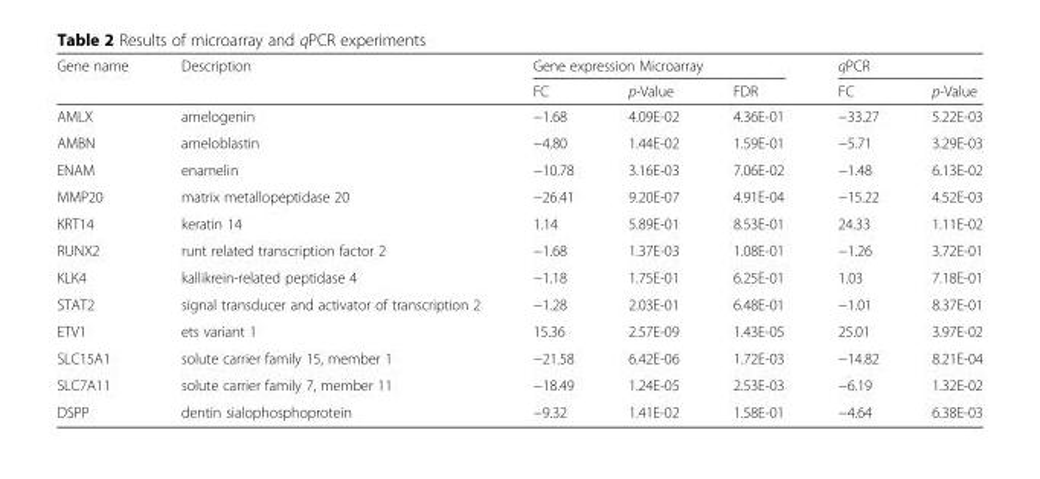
<table><thead><tr><td rowspan="2">Gene name</td><td rowspan="2">Description</td><td colspan="3">Gene expression Microarray</td><td colspan="2">qPCR</td></tr><tr><td>FC</td><td>p-Value</td><td>FDR</td><td>FC</td><td>p-Value</td></tr></thead><tbody><tr><td>AMLX</td><td>amelogenin</td><td>−1.68</td><td>4.09E-02</td><td>4.36E-01</td><td>−33.27</td><td>5.22E-03</td></tr><tr><td>AMBN</td><td>ameloblastin</td><td>−4.80</td><td>1.44E-02</td><td>1.59E-01</td><td>−5.71</td><td>3.29E-03</td></tr><tr><td>ENAM</td><td>enamelin</td><td>−10.78</td><td>3.16E-03</td><td>7.06E-02</td><td>−1.48</td><td>6.13E-02</td></tr><tr><td>MMP20</td><td>matrix metallopeptidase 20</td><td>−26.41</td><td>9.20E-07</td><td>4.91E-04</td><td>−15.22</td><td>4.52E-03</td></tr><tr><td>KRT14</td><td>keratin 14</td><td>1.14</td><td>5.89E-01</td><td>8.53E-01</td><td>24.33</td><td>1.11E-02</td></tr><tr><td>RUNX2</td><td>runt related transcription factor 2</td><td>−1.68</td><td>1.37E-03</td><td>1.08E-01</td><td>−1.26</td><td>3.72E-01</td></tr><tr><td>KLK4</td><td>kallikrein-related peptidase 4</td><td>−1.18</td><td>1.75E-01</td><td>6.25E-01</td><td>1.03</td><td>7.18E-01</td></tr><tr><td>STAT2</td><td>signal transducer and activator of transcription 2</td><td>−1.28</td><td>2.03E-01</td><td>6.48E-01</td><td>−1.01</td><td>8.37E-01</td></tr><tr><td>ETV1</td><td>ets variant 1</td><td>15.36</td><td>2.57E-09</td><td>1.43E-05</td><td>25.01</td><td>3.97E-02</td></tr><tr><td>SLC15A1</td><td>solute carrier family 15, member 1</td><td>−21.58</td><td>6.42E-06</td><td>1.72E-03</td><td>−14.82</td><td>8.21E-04</td></tr><tr><td>SLC7A11</td><td>solute carrier family 7, member 11</td><td>−18.49</td><td>1.24E-05</td><td>2.53E-03</td><td>−6.19</td><td>1.32E-02</td></tr><tr><td>DSPP</td><td>dentin sialophosphoprotein</td><td>−9.32</td><td>1.41E-02</td><td>1.58E-01</td><td>−4.64</td><td>6.38E-03</td></tr></tbody></table>